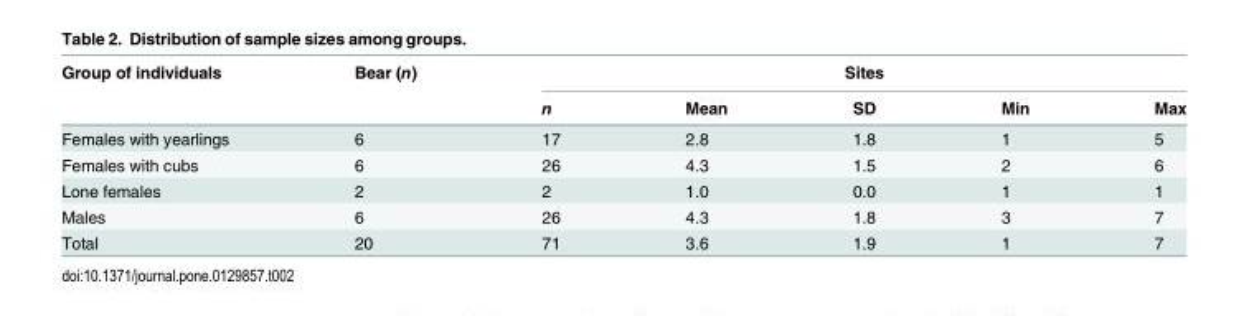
<table><thead><tr><td rowspan="2">Group of individuals</td><td rowspan="2">Bear (n)</td><td colspan="5">Sites</td></tr><tr><td>n</td><td>Mean</td><td>SD</td><td>Min</td><td>Max</td></tr></thead><tbody><tr><td>Females with yearlings</td><td>6</td><td>17</td><td>2.8</td><td>1.8</td><td>1</td><td>5</td></tr><tr><td>Females with cubs</td><td>6</td><td>26</td><td>4.3</td><td>1.5</td><td>2</td><td>6</td></tr><tr><td>Lone females</td><td>2</td><td>2</td><td>1.0</td><td>0.0</td><td>1</td><td>1</td></tr><tr><td>Males</td><td>6</td><td>26</td><td>4.3</td><td>1.8</td><td>3</td><td>7</td></tr><tr><td>Total</td><td>20</td><td>71</td><td>3.6</td><td>1.9</td><td>1</td><td>7</td></tr></tbody></table>